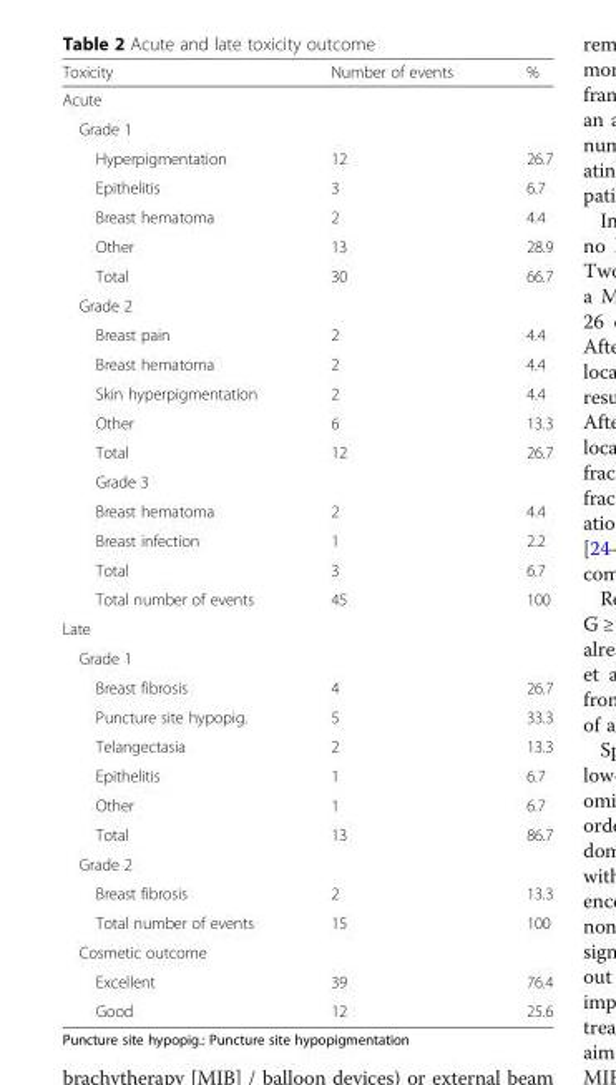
<table><thead><tr><td>Toxicity</td><td>Number of events</td><td>%</td></tr></thead><tbody><tr><td colspan="3">Acute</td></tr><tr><td colspan="3">Grade 1</td></tr><tr><td>Hyperpigmentation</td><td>12</td><td>26.7</td></tr><tr><td>Epithelitis</td><td>3</td><td>6.7</td></tr><tr><td>Breast hematoma</td><td>2</td><td>4.4</td></tr><tr><td>Other</td><td>13</td><td>28.9</td></tr><tr><td>Total</td><td>30</td><td>66.7</td></tr><tr><td colspan="3">Grade 2</td></tr><tr><td>Breast pain</td><td>2</td><td>4.4</td></tr><tr><td>Breast hematoma</td><td>2</td><td>4.4</td></tr><tr><td>Skin hyperpigmentation</td><td>2</td><td>4.4</td></tr><tr><td>Other</td><td>6</td><td>13.3</td></tr><tr><td>Total</td><td>12</td><td>26.7</td></tr><tr><td colspan="3">Grade 3</td></tr><tr><td>Breast hematoma</td><td>2</td><td>4.4</td></tr><tr><td>Breast infection</td><td>1</td><td>2.2</td></tr><tr><td>Total</td><td>3</td><td>6.7</td></tr><tr><td>Total number of events</td><td>45</td><td>100</td></tr><tr><td colspan="3">Late</td></tr><tr><td colspan="3">Grade 1</td></tr><tr><td>Breast fibrosis</td><td>4</td><td>26.7</td></tr><tr><td>Puncture site hypopig.</td><td>5</td><td>33.3</td></tr><tr><td>Telangectasia</td><td>2</td><td>13.3</td></tr><tr><td>Epithelitis</td><td>1</td><td>6.7</td></tr><tr><td>Other</td><td>1</td><td>6.7</td></tr><tr><td>Total</td><td>13</td><td>86.7</td></tr><tr><td colspan="3">Grade 2</td></tr><tr><td>Breast fibrosis</td><td>2</td><td>13.3</td></tr><tr><td>Total number of events</td><td>15</td><td>100</td></tr><tr><td colspan="3">Cosmetic outcome</td></tr><tr><td>Excellent</td><td>39</td><td>76.4</td></tr><tr><td>Good</td><td>12</td><td>25.6</td></tr></tbody></table>